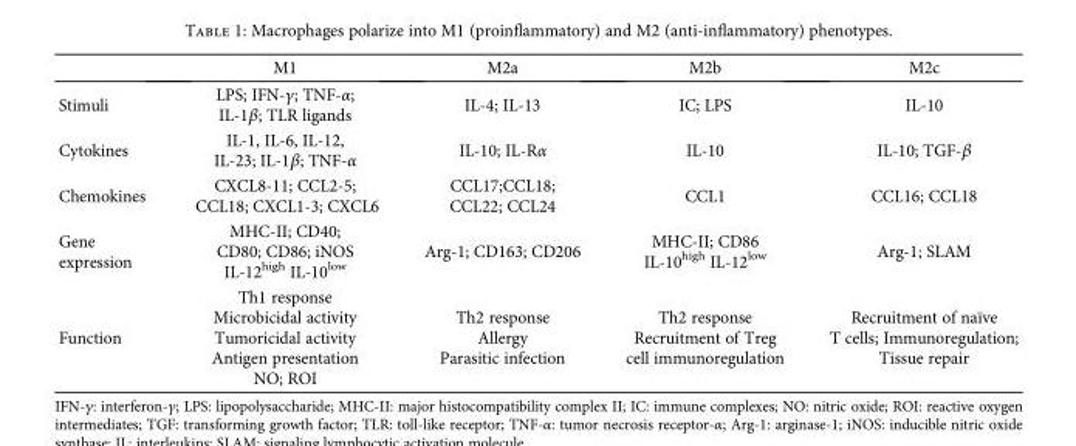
<table><thead><tr><td></td><td>M1</td><td>M2a</td><td>M2b</td><td>M2c</td></tr></thead><tbody><tr><td>Stimuli</td><td>LPS; IFN-γ; TNF-α; IL-1β; TLR ligands</td><td>IL-4; IL-13</td><td>IC; LPS</td><td>IL-10</td></tr><tr><td>Cytokines</td><td>IL-1, IL-6, IL-12, IL-23; IL-1β; TNF-α</td><td>IL-10; IL-Rα</td><td>IL-10</td><td>IL-10; TGF-β</td></tr><tr><td>Chemokines</td><td>CXCL8-11; CCL2-5; CCL18; CXCL1-3; CXCL6</td><td>CCL17;CCL18; CCL22; CCL24</td><td>CCL1</td><td>CCL16; CCL18</td></tr><tr><td>Gene expression</td><td>MHC-II; CD40; CD80; CD86; iNOS IL-12<sup>high</sup> IL-10<sup>low</sup></td><td>Arg-1; CD163; CD206</td><td>MHC-II; CD86 IL-10<sup>high</sup> IL-12<sup>low</sup></td><td>Arg-1; SLAM</td></tr><tr><td>Function</td><td>Th1 response Microbicidal activity Tumoricidal activity Antigen presentation NO; ROI</td><td>Th2 response Allergy Parasitic infection</td><td>Th2 response Recruitment of Treg cell immunoregulation</td><td>Recruitment of naïve T cells; Immunoregulation; Tissue repair</td></tr></tbody></table>